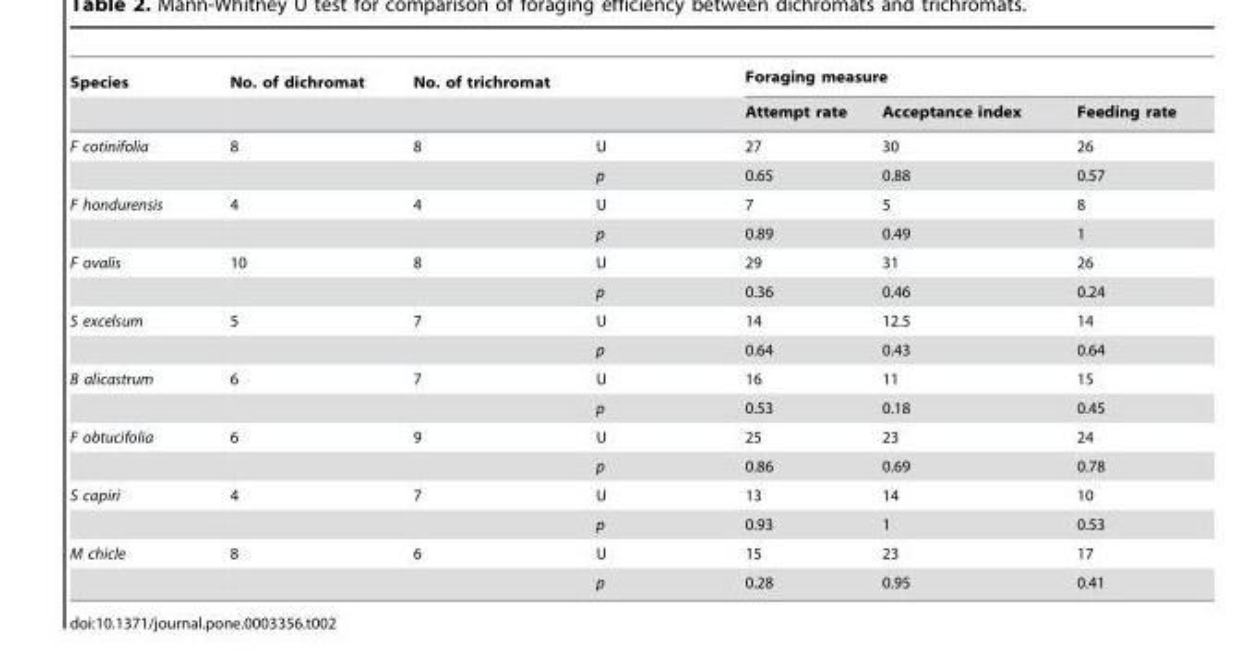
<table><thead><tr><td rowspan="2">Species</td><td rowspan="2">No. of dichromat</td><td rowspan="2">No. of trichromat</td><td rowspan="2"></td><td colspan="3">Foraging measure</td></tr><tr><td>Attempt rate</td><td>Acceptance index</td><td>Feeding rate</td></tr></thead><tbody><tr><td rowspan="2">F cotinifolia</td><td>8</td><td>8</td><td>U</td><td>27</td><td>30</td><td>26</td></tr><tr><td></td><td></td><td>p</td><td>0.65</td><td>0.88</td><td>0.57</td></tr><tr><td rowspan="2">F hondurensis</td><td>4</td><td>4</td><td>U</td><td>7</td><td>5</td><td>8</td></tr><tr><td></td><td></td><td>p</td><td>0.89</td><td>0.49</td><td>1</td></tr><tr><td rowspan="2">F ovalis</td><td>10</td><td>8</td><td>U</td><td>29</td><td>31</td><td>26</td></tr><tr><td></td><td></td><td>p</td><td>0.36</td><td>0.46</td><td>0.24</td></tr><tr><td rowspan="2">S excelsum</td><td>5</td><td>7</td><td>U</td><td>14</td><td>12.5</td><td>14</td></tr><tr><td></td><td></td><td>p</td><td>0.64</td><td>0.43</td><td>0.64</td></tr><tr><td rowspan="2">B alicastrum</td><td>6</td><td>7</td><td>U</td><td>16</td><td>11</td><td>15</td></tr><tr><td></td><td></td><td>p</td><td>0.53</td><td>0.18</td><td>0.45</td></tr><tr><td rowspan="2">F obtucifolia</td><td>6</td><td>9</td><td>U</td><td>25</td><td>23</td><td>24</td></tr><tr><td></td><td></td><td>p</td><td>0.86</td><td>0.69</td><td>0.78</td></tr><tr><td rowspan="2">S capiri</td><td>4</td><td>7</td><td>U</td><td>13</td><td>14</td><td>10</td></tr><tr><td></td><td></td><td>p</td><td>0.93</td><td>1</td><td>0.53</td></tr><tr><td rowspan="2">M chicle</td><td>8</td><td>6</td><td>U</td><td>15</td><td>23</td><td>17</td></tr><tr><td></td><td></td><td>p</td><td>0.28</td><td>0.95</td><td>0.41</td></tr></tbody></table>